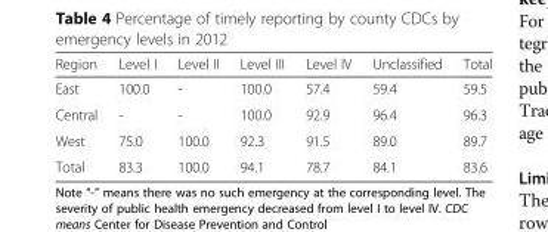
<table><thead><tr><td>Region</td><td>Level I</td><td>Level II</td><td>Level III</td><td>Level IV</td><td>Unclassified</td><td>Total</td></tr></thead><tbody><tr><td>East</td><td>100.0</td><td>-</td><td>100.0</td><td>57.4</td><td>59.4</td><td>59.5</td></tr><tr><td>Central</td><td>-</td><td>-</td><td>100.0</td><td>92.9</td><td>96.4</td><td>96.3</td></tr><tr><td>West</td><td>75.0</td><td>100.0</td><td>92.3</td><td>91.5</td><td>89.0</td><td>89.7</td></tr><tr><td>Total</td><td>83.3</td><td>100.0</td><td>94.1</td><td>78.7</td><td>84.1</td><td>83.6</td></tr></tbody></table>